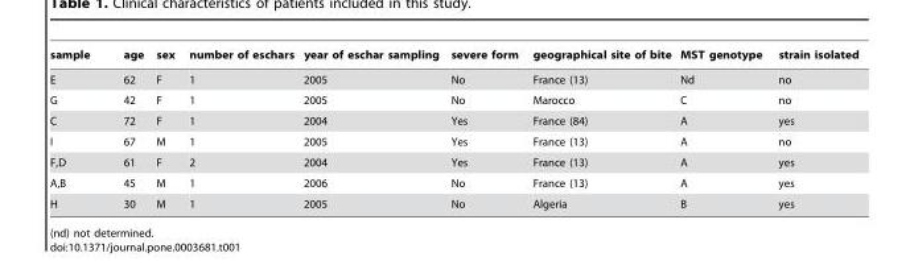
<table><thead><tr><td>sample</td><td>age</td><td>sex</td><td>number of eschars</td><td>year of eschar sampling</td><td>severe form</td><td>geographical site of bite</td><td>MST genotype</td><td>strain isolated</td></tr></thead><tbody><tr><td>E</td><td>62</td><td>F</td><td>1</td><td>2005</td><td>No</td><td>France (13)</td><td>Nd</td><td>no</td></tr><tr><td>G</td><td>42</td><td>F</td><td>1</td><td>2005</td><td>No</td><td>Marocco</td><td>C</td><td>no</td></tr><tr><td>C</td><td>72</td><td>F</td><td>1</td><td>2004</td><td>Yes</td><td>France (84)</td><td>A</td><td>yes</td></tr><tr><td>I</td><td>67</td><td>M</td><td>1</td><td>2005</td><td>Yes</td><td>France (13)</td><td>A</td><td>no</td></tr><tr><td>F,D</td><td>61</td><td>F</td><td>2</td><td>2004</td><td>Yes</td><td>France (13)</td><td>A</td><td>yes</td></tr><tr><td>A,B</td><td>45</td><td>M</td><td>1</td><td>2006</td><td>No</td><td>France (13)</td><td>A</td><td>yes</td></tr><tr><td>H</td><td>30</td><td>M</td><td>1</td><td>2005</td><td>No</td><td>Algeria</td><td>B</td><td>yes</td></tr></tbody></table>